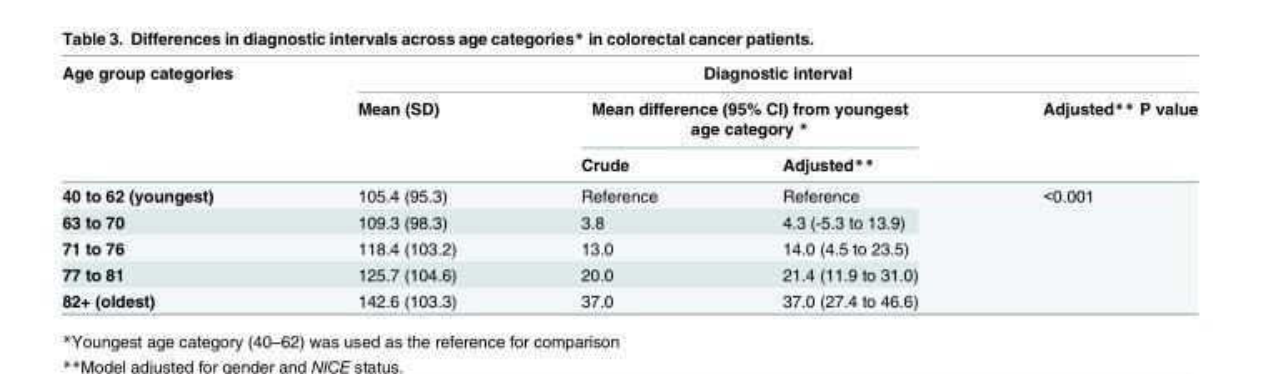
<table><thead><tr><td rowspan="3">Age group categories</td><td colspan="4">Diagnostic interval</td></tr><tr><td rowspan="2">Mean (SD)</td><td colspan="2">Mean difference (95% CI) from youngest age category *</td><td rowspan="2">Adjusted** P value</td></tr><tr><td>Crude</td><td>Adjusted**</td></tr></thead><tbody><tr><td>40 to 62 (youngest)</td><td>105.4 (95.3)</td><td>Reference</td><td>Reference</td><td rowspan="5">&lt;0.001</td></tr><tr><td>63 to 70</td><td>109.3 (98.3)</td><td>3.8</td><td>4.3 (-5.3 to 13.9)</td></tr><tr><td>71 to 76</td><td>118.4 (103.2)</td><td>13.0</td><td>14.0 (4.5 to 23.5)</td></tr><tr><td>77 to 81</td><td>125.7 (104.6)</td><td>20.0</td><td>21.4 (11.9 to 31.0)</td></tr><tr><td>82+ (oldest)</td><td>142.6 (103.3)</td><td>37.0</td><td>37.0 (27.4 to 46.6)</td></tr></tbody></table>